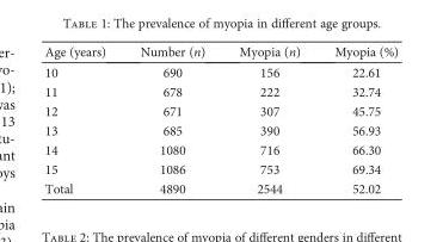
<table><thead><tr><td>Age (years)</td><td>Number (n)</td><td>Myopia (n)</td><td>Myopia (%)</td></tr></thead><tbody><tr><td>10</td><td>690</td><td>156</td><td>22.61</td></tr><tr><td>11</td><td>678</td><td>222</td><td>32.74</td></tr><tr><td>12</td><td>671</td><td>307</td><td>45.75</td></tr><tr><td>13</td><td>685</td><td>390</td><td>56.93</td></tr><tr><td>14</td><td>1080</td><td>716</td><td>66.30</td></tr><tr><td>15</td><td>1086</td><td>753</td><td>69.34</td></tr><tr><td>Total</td><td>4890</td><td>2544</td><td>52.02</td></tr></tbody></table>